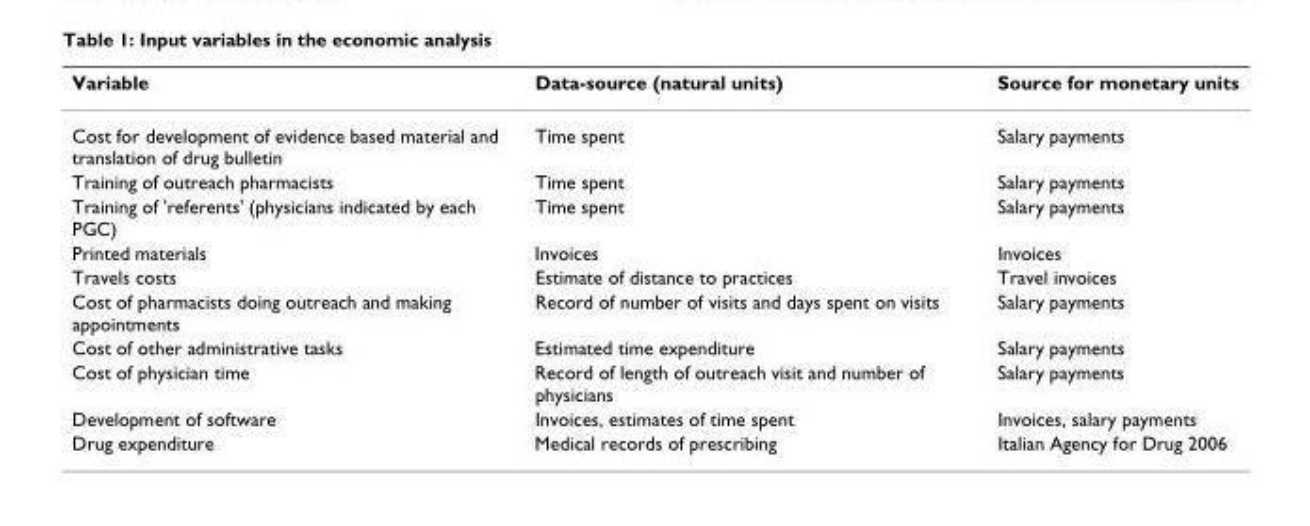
<table><thead><tr><td>Variable</td><td>Data-source (natural units)</td><td>Source for monetary units</td></tr></thead><tbody><tr><td>Cost for development of evidence based material and translation of drug bulletin</td><td>Time spent</td><td>Salary payments</td></tr><tr><td>Training of outreach pharmacists</td><td>Time spent</td><td>Salary payments</td></tr><tr><td>Training of &#x27;referents&#x27; (physicians indicated by each PGC)</td><td>Time spent</td><td>Salary payments</td></tr><tr><td>Printed materials</td><td>Invoices</td><td>Invoices</td></tr><tr><td>Travels costs</td><td>Estimate of distance to practices</td><td>Travel invoices</td></tr><tr><td>Cost of pharmacists doing outreach and making appointments</td><td>Record of number of visits and days spent on visits</td><td>Salary payments</td></tr><tr><td>Cost of other administrative tasks</td><td>Estimated time expenditure</td><td>Salary payments</td></tr><tr><td>Cost of physician time</td><td>Record of length of outreach visit and number of physicians</td><td>Salary payments</td></tr><tr><td>Development of software</td><td>Invoices, estimates of time spent</td><td>Invoices, salary payments</td></tr><tr><td>Drug expenditure</td><td>Medical records of prescribing</td><td>Italian Agency for Drug 2006</td></tr></tbody></table>